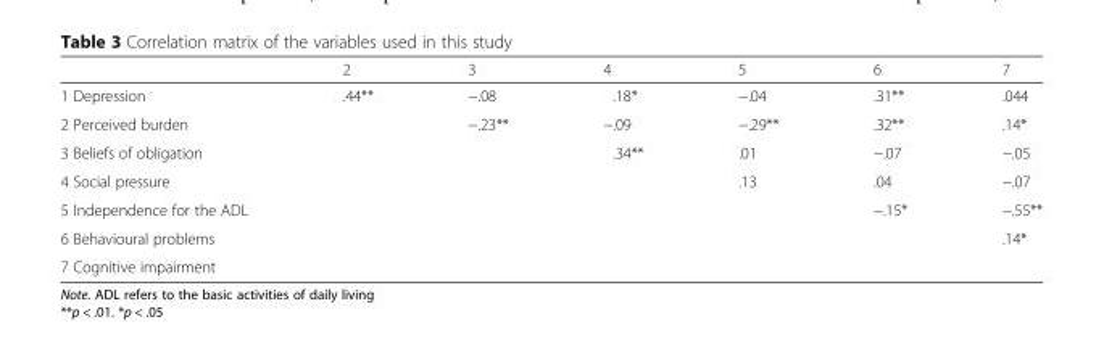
<table><thead><tr><td></td><td>2</td><td>3</td><td>4</td><td>5</td><td>6</td><td>7</td></tr></thead><tbody><tr><td>1 Depression</td><td>.44**</td><td>−.08</td><td>.18*</td><td>−.04</td><td>.31**</td><td>.044</td></tr><tr><td>2 Perceived burden</td><td></td><td>−.23**</td><td>−.09</td><td>−.29**</td><td>.32**</td><td>.14*</td></tr><tr><td>3 Beliefs of obligation</td><td></td><td></td><td>.34**</td><td>.01</td><td>−.07</td><td>−.05</td></tr><tr><td>4 Social pressure</td><td></td><td></td><td></td><td>.13</td><td>.04</td><td>−.07</td></tr><tr><td>5 Independence for the ADL</td><td></td><td></td><td></td><td></td><td>−.15*</td><td>−.55**</td></tr><tr><td>6 Behavioural problems</td><td></td><td></td><td></td><td></td><td></td><td>.14*</td></tr><tr><td>7 Cognitive impairment</td><td></td><td></td><td></td><td></td><td></td><td></td></tr></tbody></table>